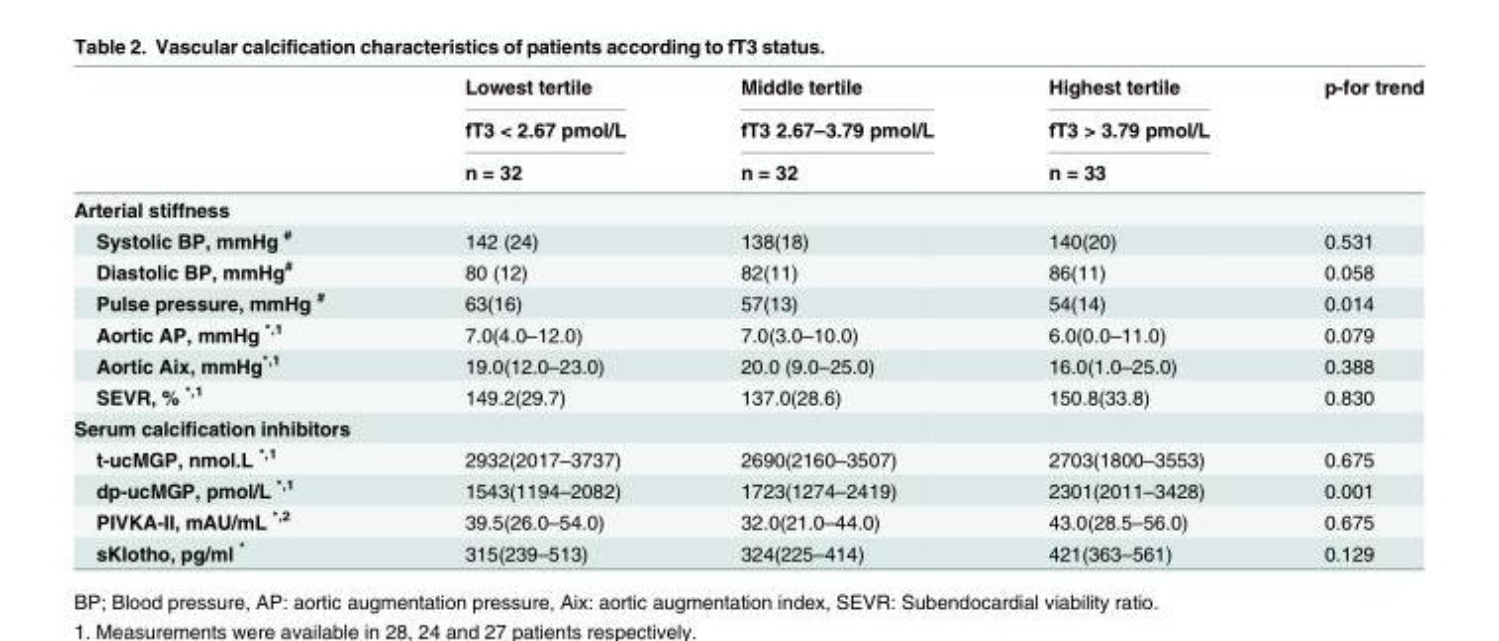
<table><thead><tr><td rowspan="3"></td><td rowspan="3">Lowest tertile fT3 &lt; 2.67 pmol/L n = 32</td><td rowspan="3">Middle tertile fT3 2.67–3.79 pmol/L n = 32</td><td rowspan="3">Highest tertile fT3 &gt; 3.79 pmol/L n = 33</td><td rowspan="3">p-for trend</td></tr><tr></tr><tr></tr></thead><tbody><tr><td colspan="5">Arterial stiffness</td></tr><tr><td>Systolic BP, mmHg <sup>#</sup></td><td>142 (24)</td><td>138(18)</td><td>140(20)</td><td>0.531</td></tr><tr><td>Diastolic BP, mmHg<sup>#</sup></td><td>80 (12)</td><td>82(11)</td><td>86(11)</td><td>0.058</td></tr><tr><td>Pulse pressure, mmHg <sup>#</sup></td><td>63(16)</td><td>57(13)</td><td>54(14)</td><td>0.014</td></tr><tr><td>Aortic AP, mmHg <sup>*,1</sup></td><td>7.0(4.0–12.0)</td><td>7.0(3.0–10.0)</td><td>6.0(0.0–11.0)</td><td>0.079</td></tr><tr><td>Aortic Aix, mmHg<sup>*,1</sup></td><td>19.0(12.0–23.0)</td><td>20.0 (9.0–25.0)</td><td>16.0(1.0–25.0)</td><td>0.388</td></tr><tr><td>SEVR, % <sup>*,1</sup></td><td>149.2(29.7)</td><td>137.0(28.6)</td><td>150.8(33.8)</td><td>0.830</td></tr><tr><td colspan="5">Serum calcification inhibitors</td></tr><tr><td>t-ucMGP, nmol.L <sup>*,1</sup></td><td>2932(2017–3737)</td><td>2690(2160–3507)</td><td>2703(1800–3553)</td><td>0.675</td></tr><tr><td>dp-ucMGP, pmol/L <sup>*,1</sup></td><td>1543(1194–2082)</td><td>1723(1274–2419)</td><td>2301(2011–3428)</td><td>0.001</td></tr><tr><td>PIVKA-II, mAU/mL <sup>*,2</sup></td><td>39.5(26.0–54.0)</td><td>32.0(21.0–44.0)</td><td>43.0(28.5–56.0)</td><td>0.675</td></tr><tr><td>sKlotho, pg/ml *</td><td>315(239–513)</td><td>324(225–414)</td><td>421(363–561)</td><td>0.129</td></tr></tbody></table>